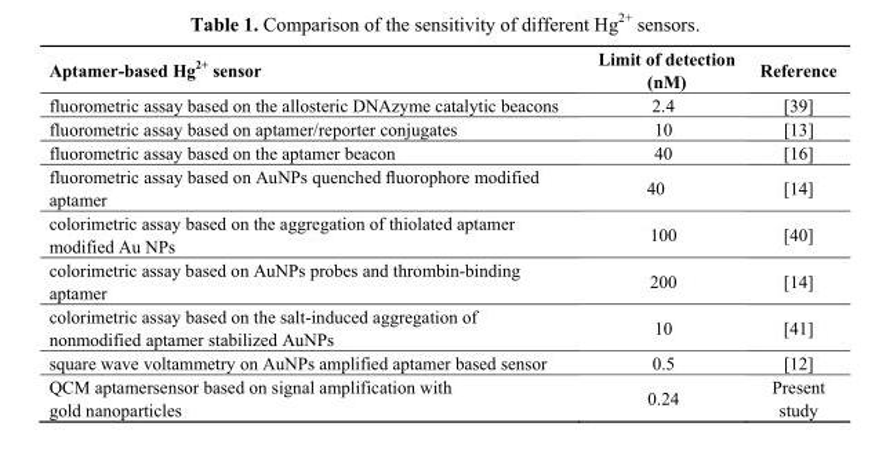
<table><thead><tr><td>Aptamer-based Hg<sup>2+</sup> sensor</td><td>Limit of detection (nM)</td><td>Reference</td></tr></thead><tbody><tr><td>fluorometric assay based on the allosteric DNAzyme catalytic beacons</td><td>2.4</td><td>[39]</td></tr><tr><td>fluorometric assay based on aptamer/reporter conjugates</td><td>10</td><td>[13]</td></tr><tr><td>fluorometric assay based on the aptamer beacon</td><td>40</td><td>[16]</td></tr><tr><td>fluorometric assay based on AuNPs quenched fluorophore modified aptamer</td><td>40</td><td>[14]</td></tr><tr><td>colorimetric assay based on the aggregation of thiolated aptamer modified Au NPs</td><td>100</td><td>[40]</td></tr><tr><td>colorimetric assay based on AuNPs probes and thrombin-binding aptamer</td><td>200</td><td>[14]</td></tr><tr><td>colorimetric assay based on the salt-induced aggregation of nonmodified aptamer stabilized AuNPs</td><td>10</td><td>[41]</td></tr><tr><td>square wave voltammetry on AuNPs amplified aptamer based sensor</td><td>0.5</td><td>[12]</td></tr><tr><td>QCM aptamersensor based on signal amplification with gold nanoparticles</td><td>0.24</td><td>Present study</td></tr></tbody></table>